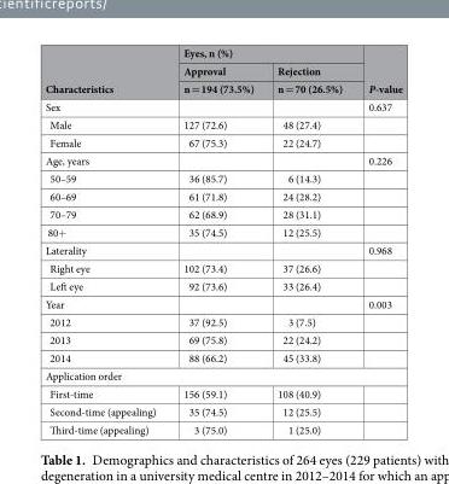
<table><thead><tr><td rowspan="3">Characteristics</td><td colspan="2">Eyes, n (%)</td><td rowspan="3">P-value</td></tr><tr><td rowspan="2">Approval n = 194 (73.5%)</td><td rowspan="2">Rejection n = 70 (26.5%)</td></tr><tr></tr></thead><tbody><tr><td>Sex</td><td></td><td></td><td>0.637</td></tr><tr><td>Male</td><td>127 (72.6)</td><td>48 (27.4)</td><td></td></tr><tr><td>Female</td><td>67 (75.3)</td><td>22 (24.7)</td><td></td></tr><tr><td>Age, years</td><td></td><td></td><td>0.226</td></tr><tr><td>50–59</td><td>36 (85.7)</td><td>6 (14.3)</td><td></td></tr><tr><td>60–69</td><td>61 (71.8)</td><td>24 (28.2)</td><td></td></tr><tr><td>70–79</td><td>62 (68.9)</td><td>28 (31.1)</td><td></td></tr><tr><td>80+</td><td>35 (74.5)</td><td>12 (25.5)</td><td></td></tr><tr><td>Laterality</td><td></td><td></td><td>0.968</td></tr><tr><td>Right eye</td><td>102 (73.4)</td><td>37 (26.6)</td><td></td></tr><tr><td>Left eye</td><td>92 (73.6)</td><td>33 (26.4)</td><td></td></tr><tr><td>Year</td><td></td><td></td><td>0.003</td></tr><tr><td>2012</td><td>37 (92.5)</td><td>3 (7.5)</td><td></td></tr><tr><td>2013</td><td>69 (75.8)</td><td>22 (24.2)</td><td></td></tr><tr><td>2014</td><td>88 (66.2)</td><td>45 (33.8)</td><td></td></tr><tr><td colspan="4">Application order</td></tr><tr><td>First-time</td><td>156 (59.1)</td><td>108 (40.9)</td><td></td></tr><tr><td>Second-time (appealing)</td><td>35 (74.5)</td><td>12 (25.5)</td><td></td></tr><tr><td>Third-time (appealing)</td><td>3 (75.0)</td><td>1 (25.0)</td><td></td></tr></tbody></table>